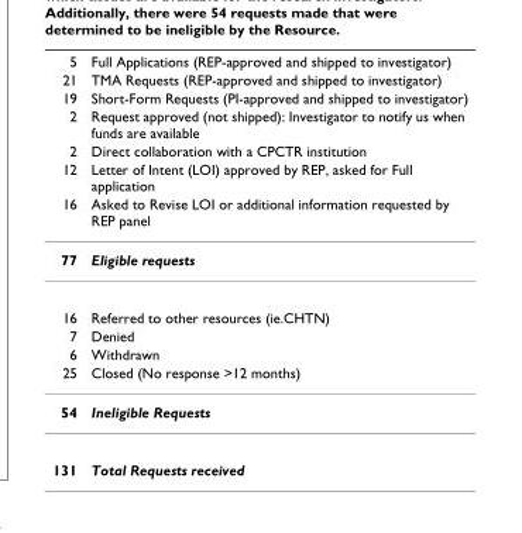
<table><thead><tr><td rowspan="7">5 21 19 2 2 12 16</td><td rowspan="7">Full Applications (REP-approved and shipped to investigator) TMA Requests (REP-approved and shipped to investigator) Short-Form Requests (PI-approved and shipped to investigator) Request approved (not shipped): Investigator to notify us when funds are available Direct collaboration with a CPCTR institution Letter of Intent (LOI) approved by REP, asked for Full application Asked to Revise LOI or additional information requested by REP panel</td></tr><tr></tr><tr></tr><tr></tr><tr></tr><tr></tr><tr></tr></thead><tbody><tr><td>77</td><td>Eligible requests</td></tr><tr><td>16</td><td>Referred to other resources (ie.CHTN)</td></tr><tr><td>7</td><td>Denied</td></tr><tr><td>6</td><td>Withdrawn</td></tr><tr><td>25</td><td>Closed (No response &gt;12 months)</td></tr><tr><td>54</td><td>Ineligible Requests</td></tr><tr><td>131</td><td>Total Requests received</td></tr></tbody></table>